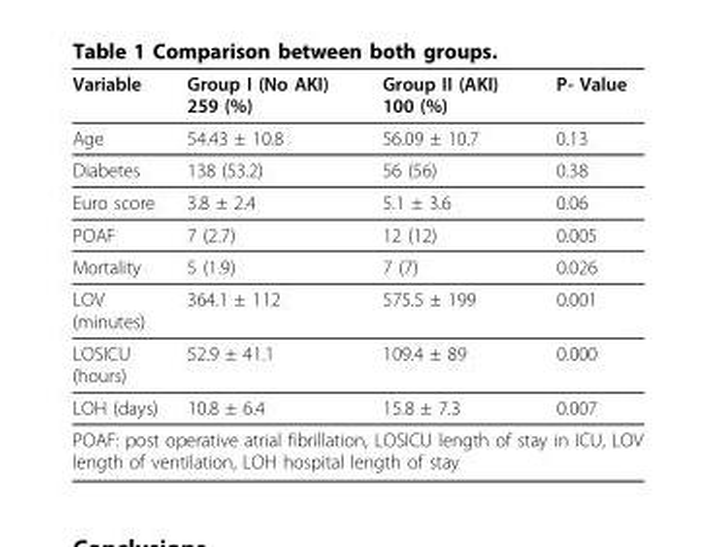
<table><thead><tr><td>Variable</td><td>Group I (No AKI) 259 (%)</td><td>Group II (AKI) 100 (%)</td><td>P- Value</td></tr></thead><tbody><tr><td>Age</td><td>54.43 ± 10.8</td><td>56.09 ± 10.7</td><td>0.13</td></tr><tr><td>Diabetes</td><td>138 (53.2)</td><td>56 (56)</td><td>0.38</td></tr><tr><td>Euro score</td><td>3.8 ± 2.4</td><td>5.1 ± 3.6</td><td>0.06</td></tr><tr><td>POAF</td><td>7 (2.7)</td><td>12 (12)</td><td>0.005</td></tr><tr><td>Mortality</td><td>5 (1.9)</td><td>7 (7)</td><td>0.026</td></tr><tr><td>LOV (minutes)</td><td>364.1 ± 112</td><td>575.5 ± 199</td><td>0.001</td></tr><tr><td>LOSICU (hours)</td><td>52.9 ± 41.1</td><td>109.4 ± 89</td><td>0.000</td></tr><tr><td>LOH (days)</td><td>10.8 ± 6.4</td><td>15.8 ± 7.3</td><td>0.007</td></tr><tr><td colspan="4">POAF: post operative atrial fibrillation, LOSICU length of stay in ICU, LOV length of ventilation, LOH hospital length of stay</td></tr></tbody></table>